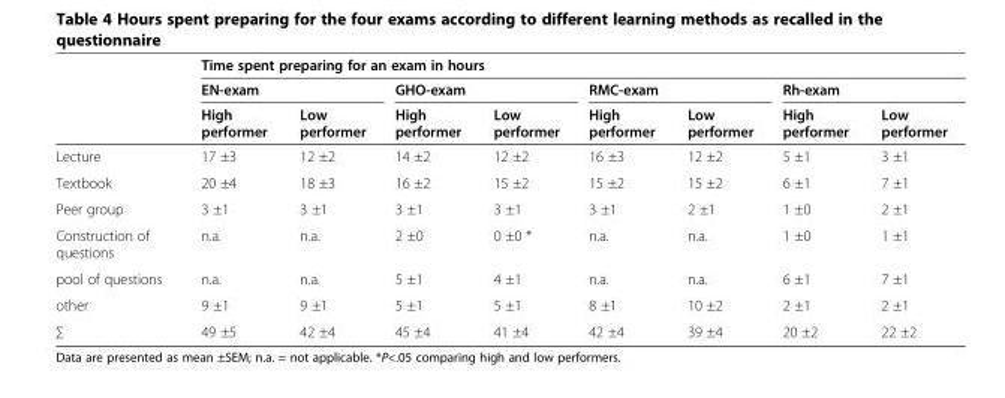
<table><thead><tr><td rowspan="3"></td><td colspan="8">Time spent preparing for an exam in hours</td></tr><tr><td colspan="2">EN-exam</td><td colspan="2">GHO-exam</td><td colspan="2">RMC-exam</td><td colspan="2">Rh-exam</td></tr><tr><td>High performer</td><td>Low performer</td><td>High performer</td><td>Low performer</td><td>High performer</td><td>Low performer</td><td>High performer</td><td>Low performer</td></tr></thead><tbody><tr><td>Lecture</td><td>17 ±3</td><td>12 ±2</td><td>14 ±2</td><td>12 ±2</td><td>16 ±3</td><td>12 ±2</td><td>5 ±1</td><td>3 ±1</td></tr><tr><td>Textbook</td><td>20 ±4</td><td>18 ±3</td><td>16 ±2</td><td>15 ±2</td><td>15 ±2</td><td>15 ±2</td><td>6 ±1</td><td>7 ±1</td></tr><tr><td>Peer group</td><td>3 ±1</td><td>3 ±1</td><td>3 ±1</td><td>3 ±1</td><td>3 ±1</td><td>2 ±1</td><td>1 ±0</td><td>2 ±1</td></tr><tr><td>Construction of questions</td><td>n.a.</td><td>n.a.</td><td>2 ±0</td><td>0 ±0 *</td><td>n.a.</td><td>n.a.</td><td>1 ±0</td><td>1 ±1</td></tr><tr><td>pool of questions</td><td>n.a.</td><td>n.a.</td><td>5 ±1</td><td>4 ±1</td><td>n.a.</td><td>n.a.</td><td>6 ±1</td><td>7 ±1</td></tr><tr><td>other</td><td>9 ±1</td><td>9 ±1</td><td>5 ±1</td><td>5 ±1</td><td>8 ±1</td><td>10 ±2</td><td>2 ±1</td><td>2 ±1</td></tr><tr><td>∑</td><td>49 ±5</td><td>42 ±4</td><td>45 ±4</td><td>41 ±4</td><td>42 ±4</td><td>39 ±4</td><td>20 ±2</td><td>22 ±2</td></tr></tbody></table>